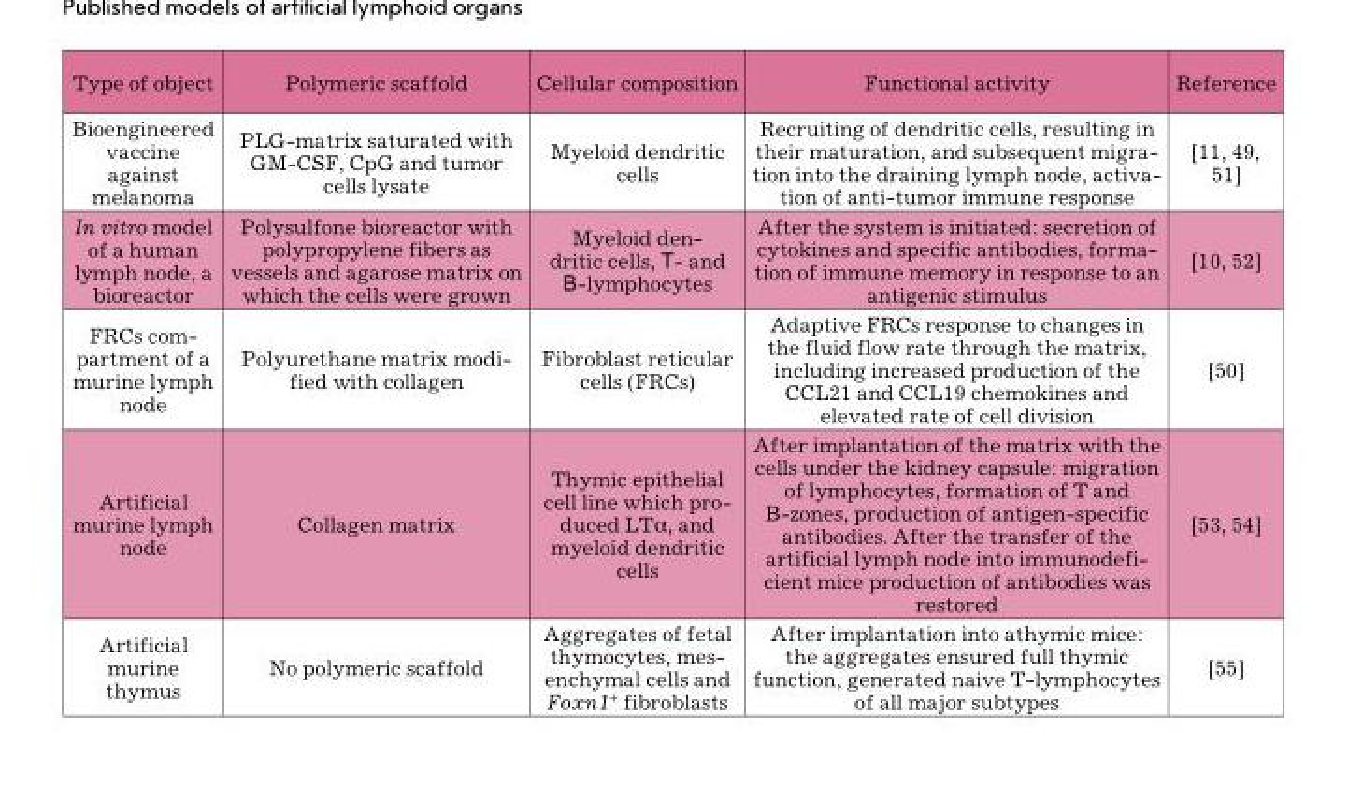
<table><thead><tr><td>Type of object</td><td>Polymeric scaffold</td><td>Cellular composition</td><td>Functional activity</td><td>Reference</td></tr></thead><tbody><tr><td>Bioengineered vaccine against melanoma</td><td>PLG-matrix saturated with GM-CSF, CpG and tumor cells lysate</td><td>Myeloid dendritic cells</td><td>Recruiting of dendritic cells, resulting in their maturation, and subsequent migra- tion into the draining lymph node, activa- tion of anti-tumor immune response</td><td>[11, 49, 51]</td></tr><tr><td>In vitro model of a human lymph node, a bioreactor</td><td>Polysulfone bioreactor with polypropylene fibers as vessels and agarose matrix on which the cells were grown</td><td>Myeloid den- dritic cells, T- and B-lymphocytes</td><td>After the system is initiated: secretion of cytokines and specific antibodies, forma- tion of immune memory in response to an antigenic stimulus</td><td>[10, 52]</td></tr><tr><td>FRCs com- partment of a murine lymph node</td><td>Polyurethane matrix modi- fied with collagen</td><td>Fibroblast reticular cells (FRCs)</td><td>Adaptive FRCs response to changes in the fluid flow rate through the matrix, including increased production of the CCL21 and CCL19 chemokines and elevated rate of cell division</td><td>[50]</td></tr><tr><td>Artificial murine lymph node</td><td>Collagen matrix</td><td>Thymic epithelial cell line which pro- duced LTα, and myeloid dendritic cells</td><td>After implantation of the matrix with the cells under the kidney capsule: migration of lymphocytes, formation of T and B-zones, production of antigen-specific antibodies. After the transfer of the artificial lymph node into immunodefi- cient mice production of antibodies was restored</td><td>[53, 54]</td></tr><tr><td>Artificial murine thymus</td><td>No polymeric scaffold</td><td>Aggregates of fetal thymocytes, mes- enchymal cells and Foxn1+ fibroblasts</td><td>After implantation into athymic mice: the aggregates ensured full thymic function, generated naive T-lymphocytes of all major subtypes</td><td>[55]</td></tr></tbody></table>